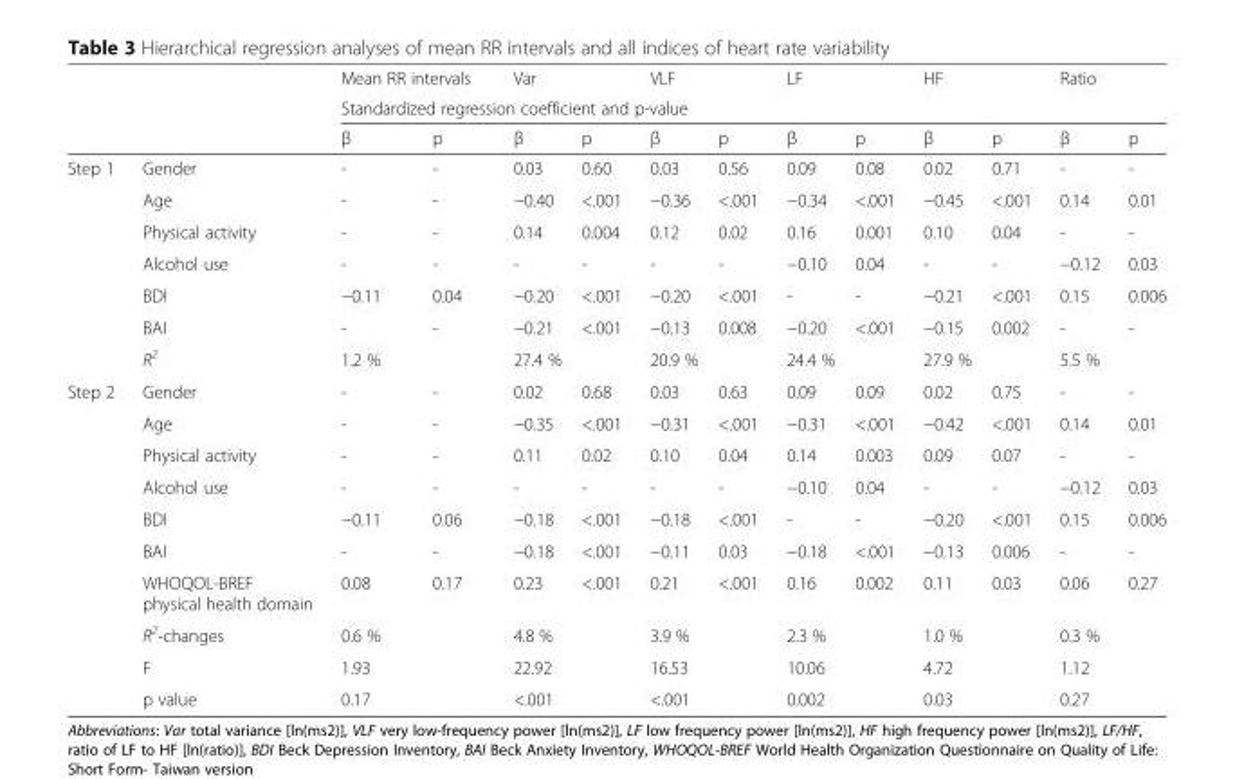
<table><thead><tr><td rowspan="3"></td><td rowspan="3"></td><td colspan="2">Mean RR intervals</td><td colspan="2">Var</td><td colspan="2">VLF</td><td colspan="2">LF</td><td colspan="2">HF</td><td colspan="2">Ratio</td></tr><tr><td colspan="12">Standardized regression coefficient and p-value</td></tr><tr><td>β</td><td>p</td><td>β</td><td>p</td><td>β</td><td>p</td><td>β</td><td>p</td><td>β</td><td>p</td><td>β</td><td>p</td></tr></thead><tbody><tr><td rowspan="7">Step 1</td><td>Gender</td><td>-</td><td>-</td><td>0.03</td><td>0.60</td><td>0.03</td><td>0.56</td><td>0.09</td><td>0.08</td><td>0.02</td><td>0.71</td><td>-</td><td>-</td></tr><tr><td>Age</td><td>-</td><td>-</td><td>−0.40</td><td>&lt;.001</td><td>−0.36</td><td>&lt;.001</td><td>−0.34</td><td>&lt;.001</td><td>−0.45</td><td>&lt;.001</td><td>0.14</td><td>0.01</td></tr><tr><td>Physical activity</td><td>-</td><td>-</td><td>0.14</td><td>0.004</td><td>0.12</td><td>0.02</td><td>0.16</td><td>0.001</td><td>0.10</td><td>0.04</td><td>-</td><td>-</td></tr><tr><td>Alcohol use</td><td>-</td><td>-</td><td>-</td><td>-</td><td>-</td><td>-</td><td>−0.10</td><td>0.04</td><td>-</td><td>-</td><td>−0.12</td><td>0.03</td></tr><tr><td>BDI</td><td>−0.11</td><td>0.04</td><td>−0.20</td><td>&lt;.001</td><td>−0.20</td><td>&lt;.001</td><td>-</td><td>-</td><td>−0.21</td><td>&lt;.001</td><td>0.15</td><td>0.006</td></tr><tr><td>BAI</td><td>-</td><td>-</td><td>−0.21</td><td>&lt;.001</td><td>−0.13</td><td>0.008</td><td>−0.20</td><td>&lt;.001</td><td>−0.15</td><td>0.002</td><td>-</td><td>-</td></tr><tr><td>R<sup>2</sup></td><td colspan="2">1.2 %</td><td colspan="2">27.4 %</td><td colspan="2">20.9 %</td><td colspan="2">24.4 %</td><td colspan="2">27.9 %</td><td colspan="2">5.5 %</td></tr><tr><td rowspan="10">Step 2</td><td>Gender</td><td>-</td><td>-</td><td>0.02</td><td>0.68</td><td>0.03</td><td>0.63</td><td>0.09</td><td>0.09</td><td>0.02</td><td>0.75</td><td>-</td><td>-</td></tr><tr><td>Age</td><td>-</td><td>-</td><td>−0.35</td><td>&lt;.001</td><td>−0.31</td><td>&lt;.001</td><td>−0.31</td><td>&lt;.001</td><td>−0.42</td><td>&lt;.001</td><td>0.14</td><td>0.01</td></tr><tr><td>Physical activity</td><td>-</td><td>-</td><td>0.11</td><td>0.02</td><td>0.10</td><td>0.04</td><td>0.14</td><td>0.003</td><td>0.09</td><td>0.07</td><td>-</td><td>-</td></tr><tr><td>Alcohol use</td><td>-</td><td>-</td><td>-</td><td>-</td><td>-</td><td>-</td><td>−0.10</td><td>0.04</td><td>-</td><td>-</td><td>−0.12</td><td>0.03</td></tr><tr><td>BDI</td><td>−0.11</td><td>0.06</td><td>−0.18</td><td>&lt;.001</td><td>−0.18</td><td>&lt;.001</td><td>-</td><td>-</td><td>−0.20</td><td>&lt;.001</td><td>0.15</td><td>0.006</td></tr><tr><td>BAI</td><td>-</td><td>-</td><td>−0.18</td><td>&lt;.001</td><td>−0.11</td><td>0.03</td><td>−0.18</td><td>&lt;.001</td><td>−0.13</td><td>0.006</td><td>-</td><td>-</td></tr><tr><td>WHOQOL-BREF physical health domain</td><td>0.08</td><td>0.17</td><td>0.23</td><td>&lt;.001</td><td>0.21</td><td>&lt;.001</td><td>0.16</td><td>0.002</td><td>0.11</td><td>0.03</td><td>0.06</td><td>0.27</td></tr><tr><td>R<sup>2</sup>-changes</td><td colspan="2">0.6 %</td><td colspan="2">4.8 %</td><td colspan="2">3.9 %</td><td colspan="2">2.3 %</td><td colspan="2">1.0 %</td><td colspan="2">0.3 %</td></tr><tr><td>F</td><td colspan="2">1.93</td><td colspan="2">22.92</td><td colspan="2">16.53</td><td colspan="2">10.06</td><td colspan="2">4.72</td><td colspan="2">1.12</td></tr><tr><td>p value</td><td colspan="2">0.17</td><td colspan="2">&lt;.001</td><td colspan="2">&lt;.001</td><td colspan="2">0.002</td><td colspan="2">0.03</td><td colspan="2">0.27</td></tr></tbody></table>